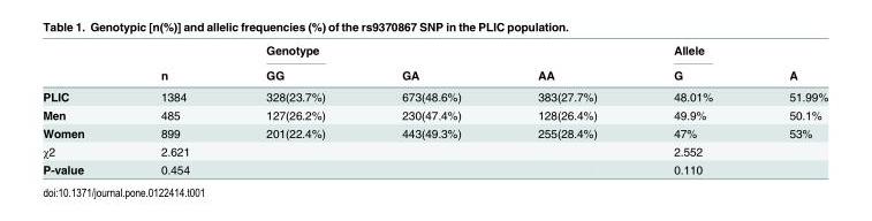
<table><thead><tr><td rowspan="2"></td><td rowspan="2">n</td><td rowspan="2">Genotype GG</td><td rowspan="2">GA</td><td rowspan="2">AA</td><td rowspan="2">Allele G</td><td rowspan="2">A</td></tr><tr></tr></thead><tbody><tr><td>PLIC</td><td>1384</td><td>328(23.7%)</td><td>673(48.6%)</td><td>383(27.7%)</td><td>48.01%</td><td>51.99%</td></tr><tr><td>Men</td><td>485</td><td>127(26.2%)</td><td>230(47.4%)</td><td>128(26.4%)</td><td>49.9%</td><td>50.1%</td></tr><tr><td>Women</td><td>899</td><td>201(22.4%)</td><td>443(49.3%)</td><td>255(28.4%)</td><td>47%</td><td>53%</td></tr><tr><td>χ2</td><td>2.621</td><td></td><td></td><td></td><td>2.552</td><td></td></tr><tr><td>P-value</td><td>0.454</td><td></td><td></td><td></td><td>0.110</td><td></td></tr></tbody></table>